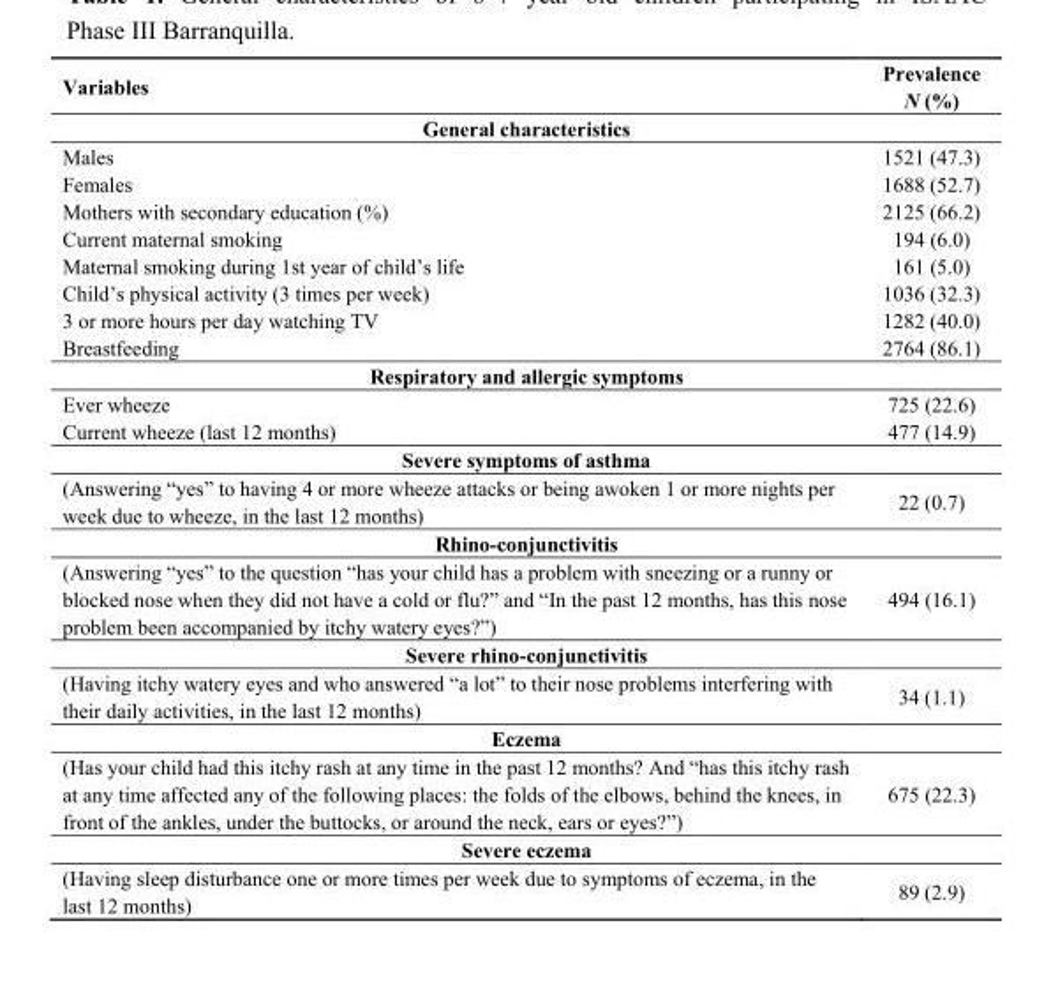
<table><thead><tr><td>Variables</td><td>Prevalence N (%)</td></tr></thead><tbody><tr><td colspan="2">General characteristics</td></tr><tr><td>Males</td><td>1521 (47.3)</td></tr><tr><td>Females</td><td>1688 (52.7)</td></tr><tr><td>Mothers with secondary education (%)</td><td>2125 (66.2)</td></tr><tr><td>Current maternal smoking</td><td>194 (6.0)</td></tr><tr><td>Maternal smoking during 1st year of child’s life</td><td>161 (5.0)</td></tr><tr><td>Child’s physical activity (3 times per week)</td><td>1036 (32.3)</td></tr><tr><td>3 or more hours per day watching TV</td><td>1282 (40.0)</td></tr><tr><td>Breastfeeding</td><td>2764 (86.1)</td></tr><tr><td colspan="2">Respiratory and allergic symptoms</td></tr><tr><td>Ever wheeze</td><td>725 (22.6)</td></tr><tr><td>Current wheeze (last 12 months)</td><td>477 (14.9)</td></tr><tr><td colspan="2">Severe symptoms of asthma</td></tr><tr><td>(Answering “yes” to having 4 or more wheeze attacks or being awoken 1 or more nights per week due to wheeze, in the last 12 months)</td><td>22 (0.7)</td></tr><tr><td colspan="2">Rhino-conjunctivitis</td></tr><tr><td>(Answering “yes” to the question “has your child has a problem with sneezing or a runny or blocked nose when they did not have a cold or flu?” and “In the past 12 months, has this nose problem been accompanied by itchy watery eyes?”)</td><td>494 (16.1)</td></tr><tr><td colspan="2">Severe rhino-conjunctivitis</td></tr><tr><td>(Having itchy watery eyes and who answered “a lot” to their nose problems interfering with their daily activities, in the last 12 months)</td><td>34 (1.1)</td></tr><tr><td colspan="2">Eczema</td></tr><tr><td>(Has your child had this itchy rash at any time in the past 12 months? And “has this itchy rash at any time affected any of the following places: the folds of the elbows, behind the knees, in front of the ankles, under the buttocks, or around the neck, ears or eyes?”)</td><td>675 (22.3)</td></tr><tr><td colspan="2">Severe eczema</td></tr><tr><td>(Having sleep disturbance one or more times per week due to symptoms of eczema, in the last 12 months)</td><td>89 (2.9)</td></tr></tbody></table>